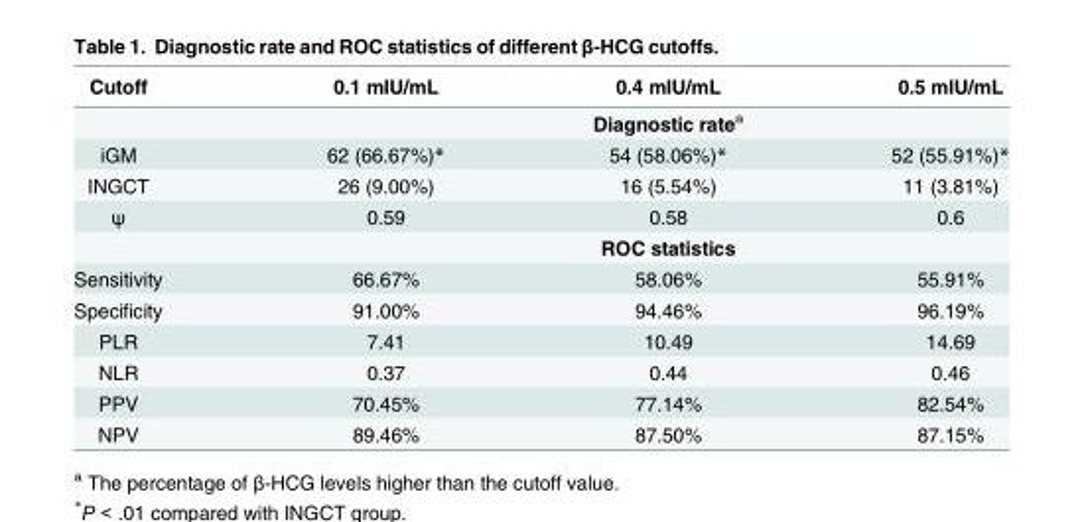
<table><thead><tr><td>Cutoff</td><td>0.1 mIU/mL</td><td>0.4 mIU/mL</td><td>0.5 mIU/mL</td></tr></thead><tbody><tr><td></td><td colspan="3">Diagnostic rate<sup>a</sup></td></tr><tr><td>iGM</td><td>62 (66.67%)*</td><td>54 (58.06%)*</td><td>52 (55.91%)*</td></tr><tr><td>INGCT</td><td>26 (9.00%)</td><td>16 (5.54%)</td><td>11 (3.81%)</td></tr><tr><td rowspan="2">ψ</td><td>0.59</td><td>0.58</td><td>0.6</td></tr><tr><td colspan="3">ROC statistics</td></tr><tr><td>Sensitivity</td><td>66.67%</td><td>58.06%</td><td>55.91%</td></tr><tr><td>Specificity</td><td>91.00%</td><td>94.46%</td><td>96.19%</td></tr><tr><td>PLR</td><td>7.41</td><td>10.49</td><td>14.69</td></tr><tr><td>NLR</td><td>0.37</td><td>0.44</td><td>0.46</td></tr><tr><td>PPV</td><td>70.45%</td><td>77.14%</td><td>82.54%</td></tr><tr><td>NPV</td><td>89.46%</td><td>87.50%</td><td>87.15%</td></tr></tbody></table>